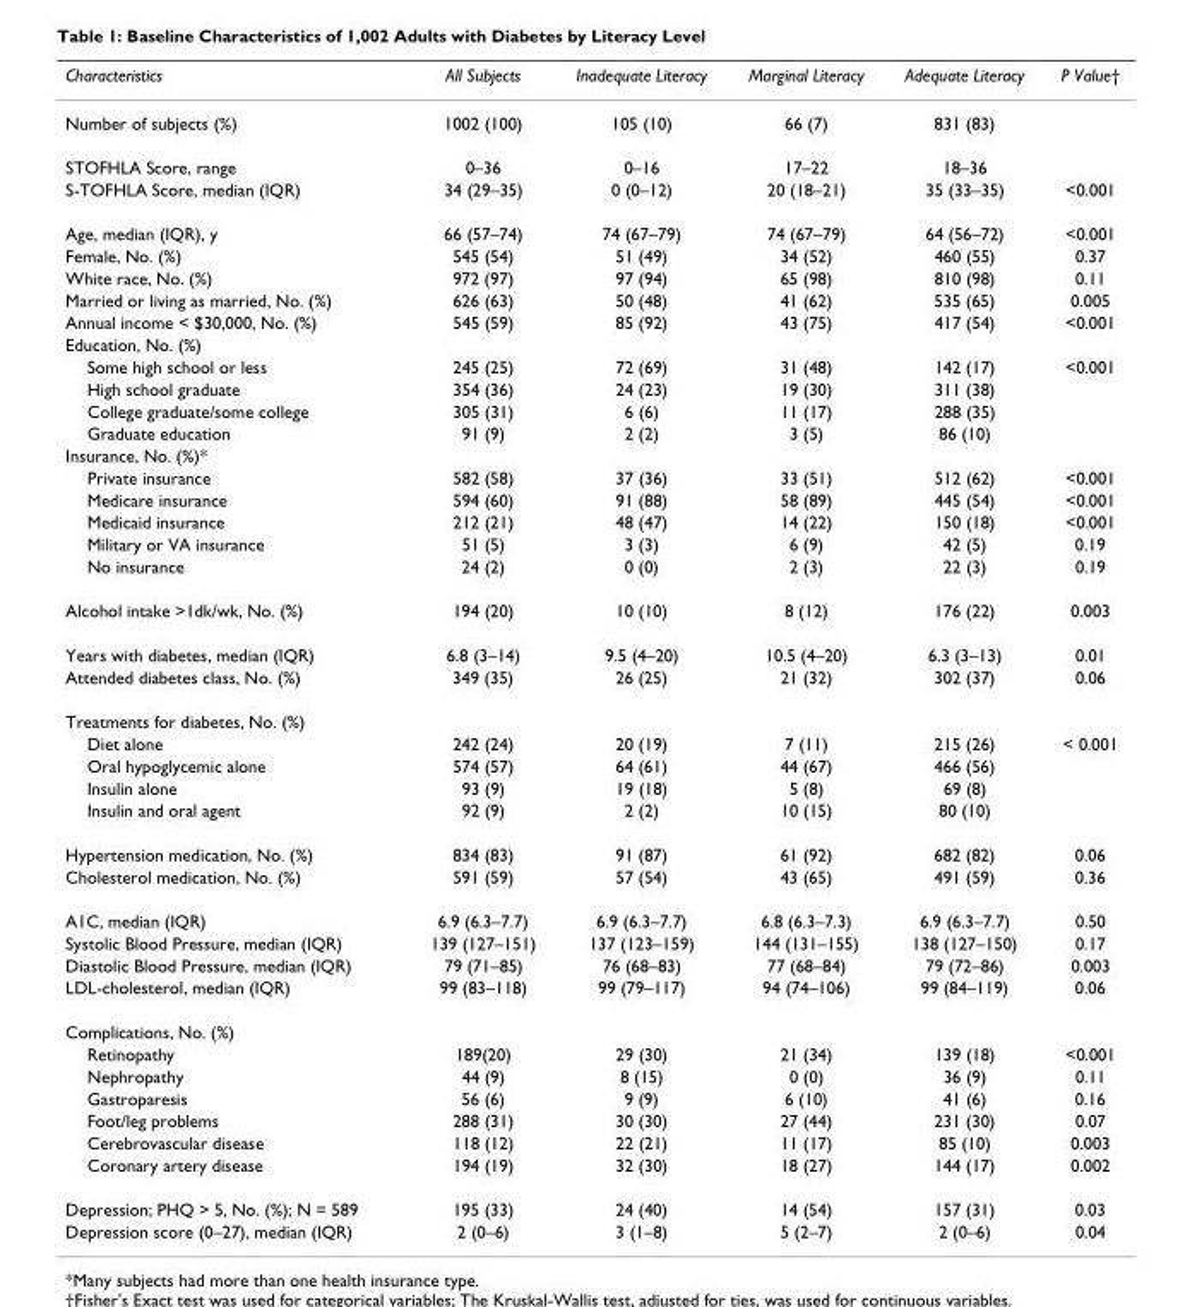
<table><thead><tr><td>Characteristics</td><td>All Subjects</td><td>Inadequate Literacy</td><td>Marginal Literacy</td><td>Adequate Literacy</td><td>P Value†</td></tr></thead><tbody><tr><td>Number of subjects (%)</td><td>1002 (100)</td><td>105 (10)</td><td>66 (7)</td><td>831 (83)</td><td></td></tr><tr><td>STOFHLA Score, range</td><td>0–36</td><td>0–16</td><td>17–22</td><td>18–36</td><td></td></tr><tr><td>S-TOFHLA Score, median (IQR)</td><td>34 (29–35)</td><td>0 (0–12)</td><td>20 (18–21)</td><td>35 (33–35)</td><td>&lt;0.001</td></tr><tr><td>Age, median (IQR), y</td><td>66 (57–74)</td><td>74 (67–79)</td><td>74 (67–79)</td><td>64 (56–72)</td><td>&lt;0.001</td></tr><tr><td>Female, No. (%)</td><td>545 (54)</td><td>51 (49)</td><td>34 (52)</td><td>460 (55)</td><td>0.37</td></tr><tr><td>White race, No. (%)</td><td>972 (97)</td><td>97 (94)</td><td>65 (98)</td><td>810 (98)</td><td>0.11</td></tr><tr><td>Married or living as married, No. (%)</td><td>626 (63)</td><td>50 (48)</td><td>41 (62)</td><td>535 (65)</td><td>0.005</td></tr><tr><td>Annual income &lt; $30,000, No. (%)</td><td>545 (59)</td><td>85 (92)</td><td>43 (75)</td><td>417 (54)</td><td>&lt;0.001</td></tr><tr><td colspan="6">Education, No. (%)</td></tr><tr><td>Some high school or less</td><td>245 (25)</td><td>72 (69)</td><td>31 (48)</td><td>142 (17)</td><td>&lt;0.001</td></tr><tr><td>High school graduate</td><td>354 (36)</td><td>24 (23)</td><td>19 (30)</td><td>311 (38)</td><td></td></tr><tr><td>College graduate/some college</td><td>305 (31)</td><td>6 (6)</td><td>11 (17)</td><td>288 (35)</td><td></td></tr><tr><td>Graduate education</td><td>91 (9)</td><td>2 (2)</td><td>3 (5)</td><td>86 (10)</td><td></td></tr><tr><td colspan="6">Insurance, No. (%)*</td></tr><tr><td>Private insurance</td><td>582 (58)</td><td>37 (36)</td><td>33 (51)</td><td>512 (62)</td><td>&lt;0.001</td></tr><tr><td>Medicare insurance</td><td>594 (60)</td><td>91 (88)</td><td>58 (89)</td><td>445 (54)</td><td>&lt;0.001</td></tr><tr><td>Medicaid insurance</td><td>212 (21)</td><td>48 (47)</td><td>14 (22)</td><td>150 (18)</td><td>&lt;0.001</td></tr><tr><td>Military or VA insurance</td><td>51 (5)</td><td>3 (3)</td><td>6 (9)</td><td>42 (5)</td><td>0.19</td></tr><tr><td>No insurance</td><td>24 (2)</td><td>0 (0)</td><td>2 (3)</td><td>22 (3)</td><td>0.19</td></tr><tr><td>Alcohol intake &gt;1dk/wk, No. (%)</td><td>194 (20)</td><td>10 (10)</td><td>8 (12)</td><td>176 (22)</td><td>0.003</td></tr><tr><td>Years with diabetes, median (IQR)</td><td>6.8 (3–14)</td><td>9.5 (4–20)</td><td>10.5 (4–20)</td><td>6.3 (3–13)</td><td>0.01</td></tr><tr><td>Attended diabetes class, No. (%)</td><td>349 (35)</td><td>26 (25)</td><td>21 (32)</td><td>302 (37)</td><td>0.06</td></tr><tr><td colspan="6">Treatments for diabetes, No. (%)</td></tr><tr><td>Diet alone</td><td>242 (24)</td><td>20 (19)</td><td>7 (11)</td><td>215 (26)</td><td>&lt; 0.001</td></tr><tr><td>Oral hypoglycemic alone</td><td>574 (57)</td><td>64 (61)</td><td>44 (67)</td><td>466 (56)</td><td></td></tr><tr><td>Insulin alone</td><td>93 (9)</td><td>19 (18)</td><td>5 (8)</td><td>69 (8)</td><td></td></tr><tr><td>Insulin and oral agent</td><td>92 (9)</td><td>2 (2)</td><td>10 (15)</td><td>80 (10)</td><td></td></tr><tr><td>Hypertension medication, No. (%)</td><td>834 (83)</td><td>91 (87)</td><td>61 (92)</td><td>682 (82)</td><td>0.06</td></tr><tr><td>Cholesterol medication, No. (%)</td><td>591 (59)</td><td>57 (54)</td><td>43 (65)</td><td>491 (59)</td><td>0.36</td></tr><tr><td>A1C, median (IQR)</td><td>6.9 (6.3–7.7)</td><td>6.9 (6.3–7.7)</td><td>6.8 (6.3–7.3)</td><td>6.9 (6.3–7.7)</td><td>0.50</td></tr><tr><td>Systolic Blood Pressure, median (IQR)</td><td>139 (127–151)</td><td>137 (123–159)</td><td>144 (131–155)</td><td>138 (127–150)</td><td>0.17</td></tr><tr><td>Diastolic Blood Pressure, median (IQR)</td><td>79 (71–85)</td><td>76 (68–83)</td><td>77 (68–84)</td><td>79 (72–86)</td><td>0.003</td></tr><tr><td>LDL-cholesterol, median (IQR)</td><td>99 (83–118)</td><td>99 (79–117)</td><td>94 (74–106)</td><td>99 (84–119)</td><td>0.06</td></tr><tr><td colspan="6">Complications, No. (%)</td></tr><tr><td>Retinopathy</td><td>189(20)</td><td>29 (30)</td><td>21 (34)</td><td>139 (18)</td><td>&lt;0.001</td></tr><tr><td>Nephropathy</td><td>44 (9)</td><td>8 (15)</td><td>0 (0)</td><td>36 (9)</td><td>0.11</td></tr><tr><td>Gastroparesis</td><td>56 (6)</td><td>9 (9)</td><td>6 (10)</td><td>41 (6)</td><td>0.16</td></tr><tr><td>Foot/leg problems</td><td>288 (31)</td><td>30 (30)</td><td>27 (44)</td><td>231 (30)</td><td>0.07</td></tr><tr><td>Cerebrovascular disease</td><td>118 (12)</td><td>22 (21)</td><td>11 (17)</td><td>85 (10)</td><td>0.003</td></tr><tr><td>Coronary artery disease</td><td>194 (19)</td><td>32 (30)</td><td>18 (27)</td><td>144 (17)</td><td>0.002</td></tr><tr><td>Depression; PHQ &gt; 5, No. (%); N = 589</td><td>195 (33)</td><td>24 (40)</td><td>14 (54)</td><td>157 (31)</td><td>0.03</td></tr><tr><td>Depression score (0–27), median (IQR)</td><td>2 (0–6)</td><td>3 (1–8)</td><td>5 (2–7)</td><td>2 (0–6)</td><td>0.04</td></tr></tbody></table>